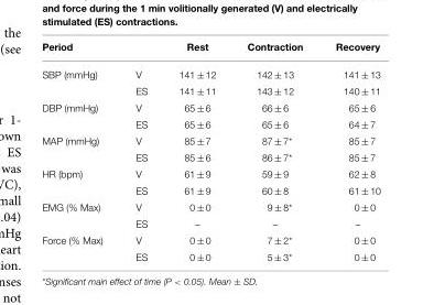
<table><thead><tr><td>Period</td><td></td><td>Rest</td><td>Contraction</td><td>Recovery</td></tr></thead><tbody><tr><td rowspan="2">SBP (mmHg)</td><td>V</td><td>141 ± 12</td><td>142 ± 13</td><td>141 ± 13</td></tr><tr><td>ES</td><td>141 ± 11</td><td>143 ± 12</td><td>140 ± 11</td></tr><tr><td rowspan="2">DBP (mmHg)</td><td>V</td><td>65 ± 6</td><td>66 ± 6</td><td>65 ± 6</td></tr><tr><td>ES</td><td>65 ± 6</td><td>65 ± 6</td><td>64 ± 7</td></tr><tr><td rowspan="2">MAP (mmHg)</td><td>V</td><td>85 ± 7</td><td>87 ± 7*</td><td>85 ± 7</td></tr><tr><td>ES</td><td>85 ± 6</td><td>86 ± 7*</td><td>85 ± 7</td></tr><tr><td rowspan="2">HR (bpm)</td><td>V</td><td>61 ± 9</td><td>59 ± 9</td><td>62 ± 8</td></tr><tr><td>ES</td><td>61 ± 9</td><td>60 ± 8</td><td>61 ± 10</td></tr><tr><td rowspan="2">EMG (% Max)</td><td>V</td><td>0 ± 0</td><td>9 ± 8*</td><td>0 ± 0</td></tr><tr><td>ES</td><td>–</td><td>–</td><td>–</td></tr><tr><td rowspan="2">Force (% Max)</td><td>V</td><td>0 ± 0</td><td>7 ± 2*</td><td>0 ± 0</td></tr><tr><td>ES</td><td>0 ± 0</td><td>5 ± 3*</td><td>0 ± 0</td></tr></tbody></table>